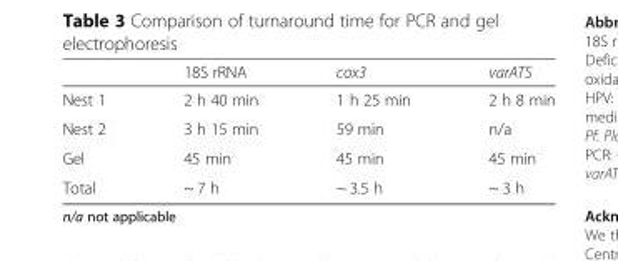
<table><thead><tr><td></td><td>18S rRNA</td><td>cox3</td><td>varATS</td></tr></thead><tbody><tr><td>Nest 1</td><td>2 h 40 min</td><td>1 h 25 min</td><td>2 h 8 min</td></tr><tr><td>Nest 2</td><td>3 h 15 min</td><td>59 min</td><td>n/a</td></tr><tr><td>Gel</td><td>45 min</td><td>45 min</td><td>45 min</td></tr><tr><td>Total</td><td>~ 7 h</td><td>~ 3.5 h</td><td>~ 3 h</td></tr></tbody></table>